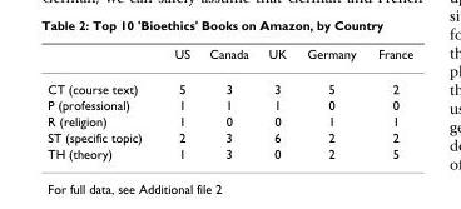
<table><thead><tr><td></td><td>US</td><td>Canada</td><td>UK</td><td>Germany</td><td>France</td></tr></thead><tbody><tr><td>CT (course text)</td><td>5</td><td>3</td><td>3</td><td>5</td><td>2</td></tr><tr><td>P (professional)</td><td>1</td><td>1</td><td>1</td><td>0</td><td>0</td></tr><tr><td>R (religion)</td><td>1</td><td>0</td><td>0</td><td>1</td><td>1</td></tr><tr><td>ST (specific topic)</td><td>2</td><td>3</td><td>6</td><td>2</td><td>2</td></tr><tr><td>TH (theory)</td><td>1</td><td>3</td><td>0</td><td>2</td><td>5</td></tr></tbody></table>